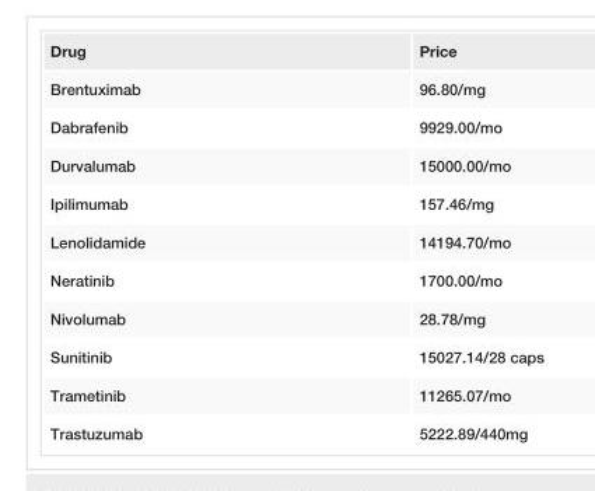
<table><tbody><tr><td>Drug</td><td>Price</td></tr><tr><td>Brentuximab</td><td>96.80/mg</td></tr><tr><td>Dabrafenib</td><td>9929.00/mo</td></tr><tr><td>Durvalumab</td><td>15000.00/mo</td></tr><tr><td>Ipilimumab</td><td>157.46/mg</td></tr><tr><td>Lenolidamide</td><td>14194.70/mo</td></tr><tr><td>Neratinib</td><td>1700.00/mo</td></tr><tr><td>Nivolumab</td><td>28.78/mg</td></tr><tr><td>Sunitinib</td><td>15027.14/28 caps</td></tr><tr><td>Trametinib</td><td>11265.07/mo</td></tr><tr><td>Trastuzumab</td><td>5222.89/440mg</td></tr></tbody></table>